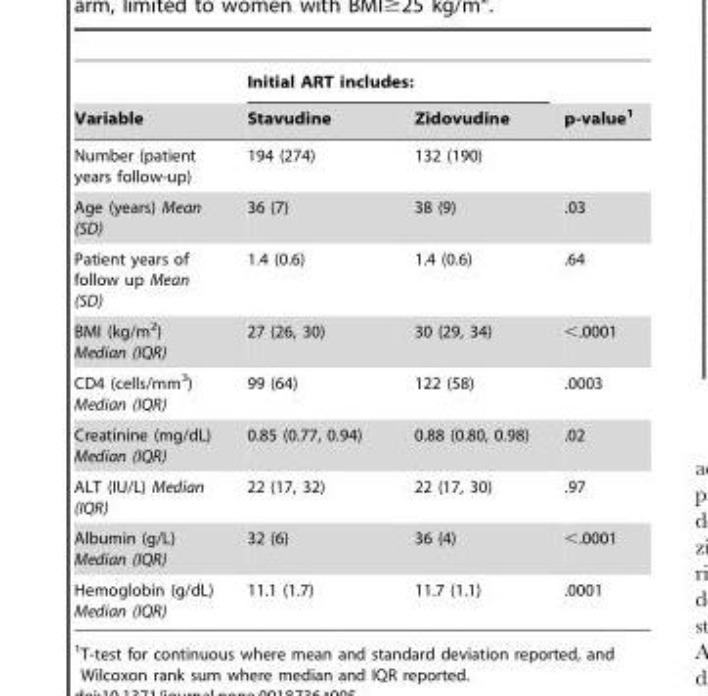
<table><thead><tr><td rowspan="2">Variable</td><td colspan="2">Initial ART includes:</td><td rowspan="2">p-value<sup>1</sup></td></tr><tr><td>Stavudine</td><td>Zidovudine</td></tr></thead><tbody><tr><td>Number (patient years follow-up)</td><td>194 (274)</td><td>132 (190)</td><td></td></tr><tr><td>Age (years) Mean (SD)</td><td>36 (7)</td><td>38 (9)</td><td>.03</td></tr><tr><td>Patient years of follow up Mean (SD)</td><td>1.4 (0.6)</td><td>1.4 (0.6)</td><td>.64</td></tr><tr><td>BMI (kg/m<sup>2</sup>) Median (IQR)</td><td>27 (26, 30)</td><td>30 (29, 34)</td><td>&lt;.0001</td></tr><tr><td>CD4 (cells/mm<sup>3</sup>) Median (IQR)</td><td>99 (64)</td><td>122 (58)</td><td>.0003</td></tr><tr><td>Creatinine (mg/dL) Median (IQR)</td><td>0.85 (0.77, 0.94)</td><td>0.88 (0.80, 0.98)</td><td>.02</td></tr><tr><td>ALT (IU/L) Median (IQR)</td><td>22 (17, 32)</td><td>22 (17, 30)</td><td>.97</td></tr><tr><td>Albumin (g/L) Median (IQR)</td><td>32 (6)</td><td>36 (4)</td><td>&lt;.0001</td></tr><tr><td>Hemoglobin (g/dL) Median (IQR)</td><td>11.1 (1.7)</td><td>11.7 (1.1)</td><td>.0001</td></tr></tbody></table>